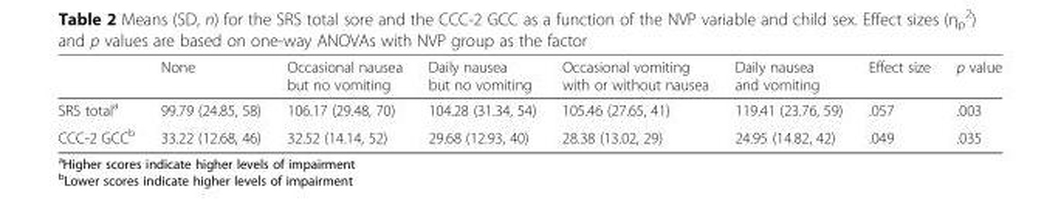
<table><thead><tr><td></td><td>None</td><td>Occasional nausea but no vomiting</td><td>Daily nausea but no vomiting</td><td>Occasional vomiting with or without nausea</td><td>Daily nausea and vomiting</td><td>Effect size</td><td>p value</td></tr></thead><tbody><tr><td>SRS total<sup>a</sup></td><td>99.79 (24.85, 58)</td><td>106.17 (29.48, 70)</td><td>104.28 (31.34, 54)</td><td>105.46 (27.65, 41)</td><td>119.41 (23.76, 59)</td><td>.057</td><td>.003</td></tr><tr><td>CCC-2 GCC<sup>b</sup></td><td>33.22 (12.68, 46)</td><td>32.52 (14.14, 52)</td><td>29.68 (12.93, 40)</td><td>28.38 (13.02, 29)</td><td>24.95 (14.82, 42)</td><td>.049</td><td>.035</td></tr></tbody></table>